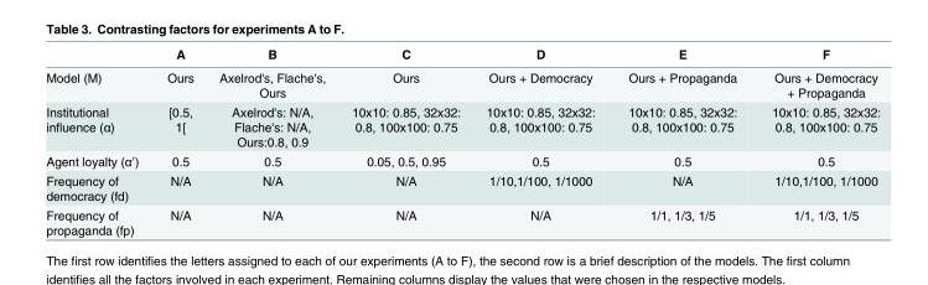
<table><thead><tr><td></td><td>A</td><td>B</td><td>C</td><td>D</td><td>E</td><td>F</td></tr></thead><tbody><tr><td>Model (M)</td><td>Ours</td><td>Axelrod&#x27;s, Flache&#x27;s, Ours</td><td>Ours</td><td>Ours + Democracy</td><td>Ours + Propaganda</td><td>Ours + Democracy + Propaganda</td></tr><tr><td>Institutional influence (α)</td><td>[0.5, 1[</td><td>Axelrod&#x27;s: N/A, Flache&#x27;s: N/A, Ours:0.8, 0.9</td><td>10x10: 0.85, 32x32: 0.8, 100x100: 0.75</td><td>10x10: 0.85, 32x32: 0.8, 100x100: 0.75</td><td>10x10: 0.85, 32x32: 0.8, 100x100: 0.75</td><td>10x10: 0.85, 32x32: 0.8, 100x100: 0.75</td></tr><tr><td>Agent loyalty (α′)</td><td>0.5</td><td>0.5</td><td>0.05, 0.5, 0.95</td><td>0.5</td><td>0.5</td><td>0.5</td></tr><tr><td>Frequency of democracy (fd)</td><td>N/A</td><td>N/A</td><td>N/A</td><td>1/10,1/100, 1/1000</td><td>N/A</td><td>1/10,1/100, 1/1000</td></tr><tr><td>Frequency of propaganda (fp)</td><td>N/A</td><td>N/A</td><td>N/A</td><td>N/A</td><td>1/1, 1/3, 1/5</td><td>1/1, 1/3, 1/5</td></tr></tbody></table>